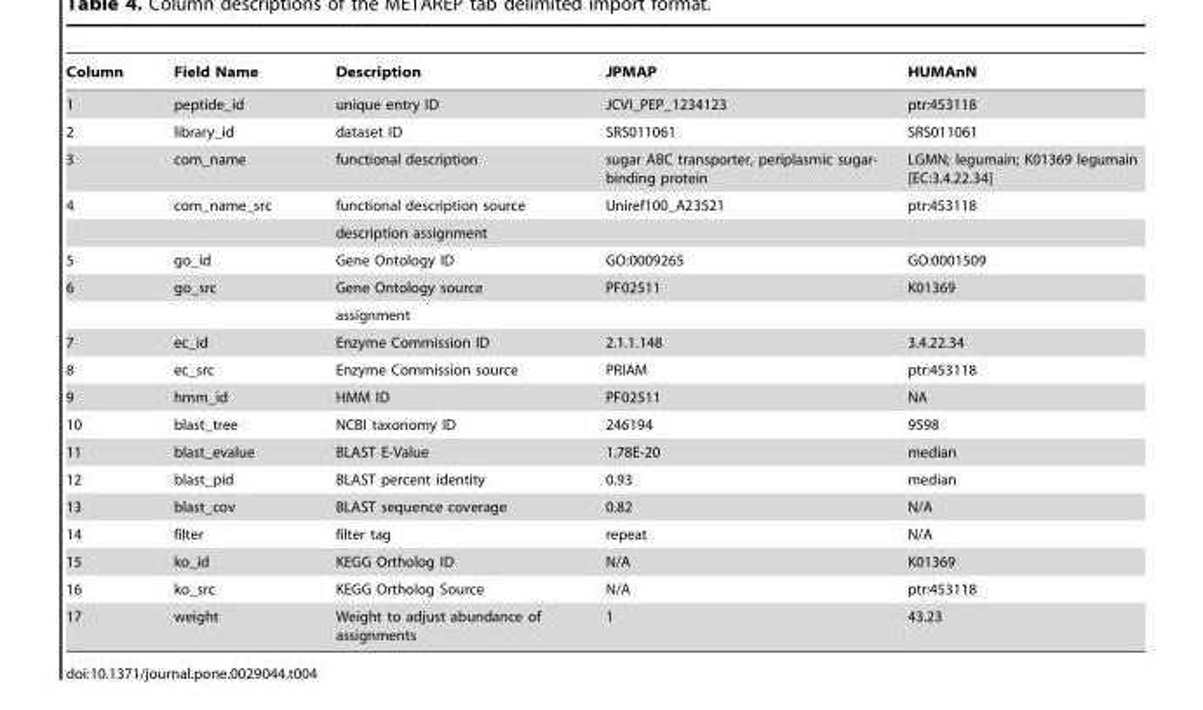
<table><thead><tr><td>Column</td><td>Field Name</td><td>Description</td><td>JPMAP</td><td>HUMAnN</td></tr></thead><tbody><tr><td>1</td><td>peptide_id</td><td>unique entry ID</td><td>JCVI_PEP_1234123</td><td>ptr:453118</td></tr><tr><td>2</td><td>library_id</td><td>dataset ID</td><td>SRS011061</td><td>SRS011061</td></tr><tr><td>3</td><td>com_name</td><td>functional description</td><td>sugar ABC transporter, periplasmic sugar- binding protein</td><td>LGMN; legumain; K01369 legumain [EC:3.4.22.34]</td></tr><tr><td rowspan="2">4</td><td>com_name_src</td><td>functional description source</td><td>Uniref100_A23521</td><td>ptr:453118</td></tr><tr><td></td><td>description assignment</td><td></td><td></td></tr><tr><td>5</td><td>go_id</td><td>Gene Ontology ID</td><td>GO:0009265</td><td>GO:0001509</td></tr><tr><td rowspan="2">6</td><td>go_src</td><td>Gene Ontology source</td><td>PF02511</td><td>K01369</td></tr><tr><td></td><td>assignment</td><td></td><td></td></tr><tr><td>7</td><td>ec_id</td><td>Enzyme Commission ID</td><td>2.1.1.148</td><td>3.4.22.34</td></tr><tr><td>8</td><td>ec_src</td><td>Enzyme Commission source</td><td>PRIAM</td><td>ptr:453118</td></tr><tr><td>9</td><td>hmm_id</td><td>HMM ID</td><td>PF02511</td><td>NA</td></tr><tr><td>10</td><td>blast_tree</td><td>NCBI taxonomy ID</td><td>246194</td><td>9598</td></tr><tr><td>11</td><td>blast_evalue</td><td>BLAST E-Value</td><td>1.78E-20</td><td>median</td></tr><tr><td>12</td><td>blast_pid</td><td>BLAST percent identity</td><td>0.93</td><td>median</td></tr><tr><td>13</td><td>blast_cov</td><td>BLAST sequence coverage</td><td>0.82</td><td>N/A</td></tr><tr><td>14</td><td>filter</td><td>filter tag</td><td>repeat</td><td>N/A</td></tr><tr><td>15</td><td>ko_id</td><td>KEGG Ortholog ID</td><td>N/A</td><td>K01369</td></tr><tr><td>16</td><td>ko_src</td><td>KEGG Ortholog Source</td><td>N/A</td><td>ptr:453118</td></tr><tr><td>17</td><td>weight</td><td>Weight to adjust abundance of assignments</td><td>1</td><td>43.23</td></tr></tbody></table>